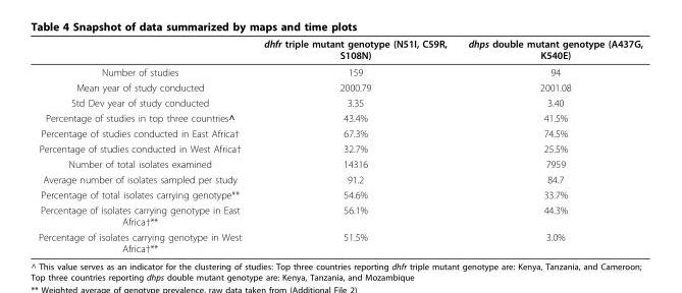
<table><thead><tr><td></td><td>dhfr triple mutant genotype (N51I, C59R, S108N)</td><td>dhps double mutant genotype (A437G, K540E)</td></tr></thead><tbody><tr><td>Number of studies</td><td>159</td><td>94</td></tr><tr><td>Mean year of study conducted</td><td>2000.79</td><td>2001.08</td></tr><tr><td>Std Dev year of study conducted</td><td>3.35</td><td>3.40</td></tr><tr><td>Percentage of studies in top three countries^</td><td>43.4%</td><td>41.5%</td></tr><tr><td>Percentage of studies conducted in East Africa†</td><td>67.3%</td><td>74.5%</td></tr><tr><td>Percentage of studies conducted in West Africa†</td><td>32.7%</td><td>25.5%</td></tr><tr><td>Number of total isolates examined</td><td>14316</td><td>7959</td></tr><tr><td>Average number of isolates sampled per study</td><td>91.2</td><td>84.7</td></tr><tr><td>Percentage of total isolates carrying genotype**</td><td>54.6%</td><td>33.7%</td></tr><tr><td>Percentage of isolates carrying genotype in East Africa†**</td><td>56.1%</td><td>44.3%</td></tr><tr><td>Percentage of isolates carrying genotype in West Africa†**</td><td>51.5%</td><td>3.0%</td></tr></tbody></table>